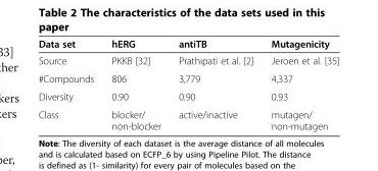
<table><thead><tr><td>Data set</td><td>hERG</td><td>antiTB</td><td>Mutagenicity</td></tr></thead><tbody><tr><td>Source</td><td>PKKB [32]</td><td>Prathipati et al. [2]</td><td>Jeroen et al. [35]</td></tr><tr><td>#Compounds</td><td>806</td><td>3,779</td><td>4,337</td></tr><tr><td>Diversity</td><td>0.90</td><td>0.90</td><td>0.93</td></tr><tr><td>Class</td><td>blocker/ non-blocker</td><td>active/inactive</td><td>mutagen/ non-mutagen</td></tr></tbody></table>